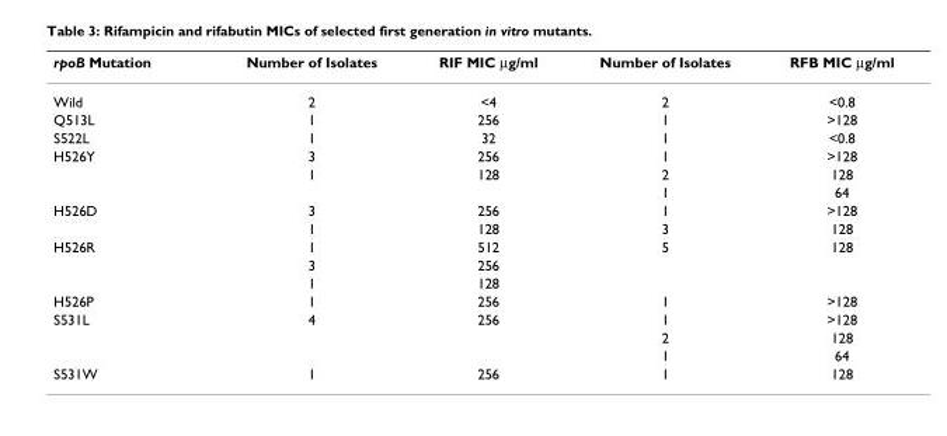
<table><thead><tr><td>rpoB Mutation</td><td>Number of Isolates</td><td>RIF MIC µg/ml</td><td>Number of Isolates</td><td>RFB MIC µg/ml</td></tr></thead><tbody><tr><td>Wild</td><td>2</td><td>&lt;4</td><td>2</td><td>&lt;0.8</td></tr><tr><td>Q513L</td><td>1</td><td>256</td><td>1</td><td>&gt;128</td></tr><tr><td>S522L</td><td>1</td><td>32</td><td>1</td><td>&lt;0.8</td></tr><tr><td rowspan="3">H526Y</td><td>3</td><td>256</td><td>1</td><td>&gt;128</td></tr><tr><td>1</td><td>128</td><td>2</td><td>128</td></tr><tr><td></td><td></td><td>1</td><td>64</td></tr><tr><td rowspan="2">H526D</td><td>3</td><td>256</td><td>1</td><td>&gt;128</td></tr><tr><td>1</td><td>128</td><td>3</td><td>128</td></tr><tr><td rowspan="3">H526R</td><td>1</td><td>512</td><td>5</td><td>128</td></tr><tr><td>3</td><td>256</td><td></td><td></td></tr><tr><td>1</td><td>128</td><td></td><td></td></tr><tr><td>H526P</td><td>1</td><td>256</td><td>1</td><td>&gt;128</td></tr><tr><td rowspan="3">S531L</td><td>4</td><td>256</td><td>1</td><td>&gt;128</td></tr><tr><td></td><td></td><td>2</td><td>128</td></tr><tr><td></td><td></td><td>1</td><td>64</td></tr><tr><td>S531W</td><td>1</td><td>256</td><td>1</td><td>128</td></tr></tbody></table>